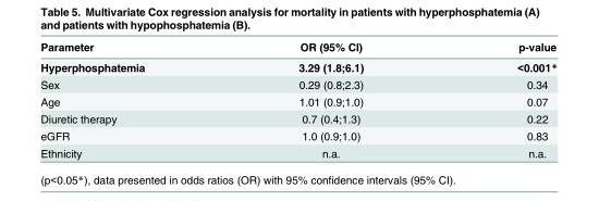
<table><thead><tr><td>Parameter</td><td>OR (95% CI)</td><td>p-value</td></tr></thead><tbody><tr><td>Hyperphosphatemia</td><td>3.29 (1.8;6.1)</td><td>&lt;0.001*</td></tr><tr><td>Sex</td><td>0.29 (0.8;2.3)</td><td>0.34</td></tr><tr><td>Age</td><td>1.01 (0.9;1.0)</td><td>0.07</td></tr><tr><td>Diuretic therapy</td><td>0.7 (0.4;1.3)</td><td>0.22</td></tr><tr><td>eGFR</td><td>1.0 (0.9;1.0)</td><td>0.83</td></tr><tr><td>Ethnicity</td><td>n.a.</td><td>n.a.</td></tr></tbody></table>